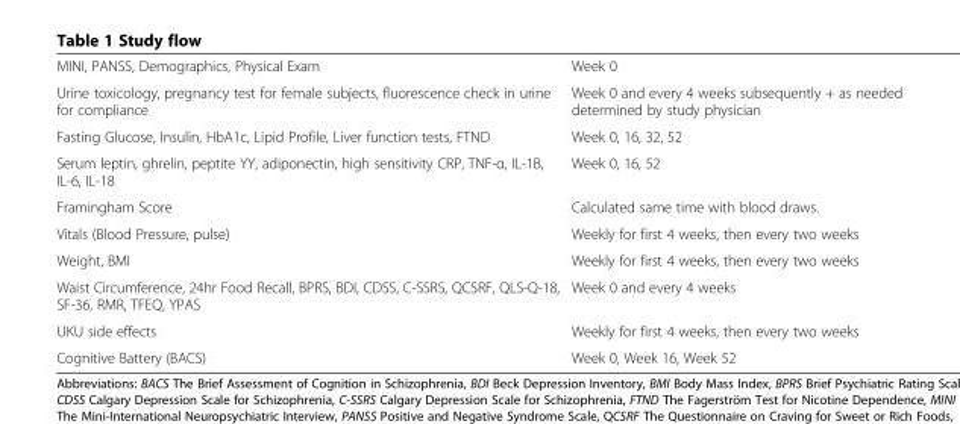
<table><tbody><tr><td>MINI, PANSS, Demographics, Physical Exam</td><td>Week 0</td></tr><tr><td>Urine toxicology, pregnancy test for female subjects, fluorescence check in urine for compliance</td><td>Week 0 and every 4 weeks subsequently + as needed determined by study physician</td></tr><tr><td>Fasting Glucose, Insulin, HbA1c, Lipid Profile, Liver function tests, FTND</td><td>Week 0, 16, 32, 52</td></tr><tr><td>Serum leptin, ghrelin, peptite YY, adiponectin, high sensitivity CRP, TNF-α, IL-1B, IL-6, IL-18</td><td>Week 0, 16, 52</td></tr><tr><td>Framingham Score</td><td>Calculated same time with blood draws.</td></tr><tr><td>Vitals (Blood Pressure, pulse)</td><td>Weekly for first 4 weeks, then every two weeks</td></tr><tr><td>Weight, BMI</td><td>Weekly for first 4 weeks, then every two weeks</td></tr><tr><td>Waist Circumference, 24hr Food Recall, BPRS, BDI, CDSS, C-SSRS, QCSRF, QLS-Q-18, SF-36, RMR, TFEQ, YPAS</td><td>Week 0 and every 4 weeks</td></tr><tr><td>UKU side effects</td><td>Weekly for first 4 weeks, then every two weeks</td></tr><tr><td>Cognitive Battery (BACS)</td><td>Week 0, Week 16, Week 52</td></tr></tbody></table>